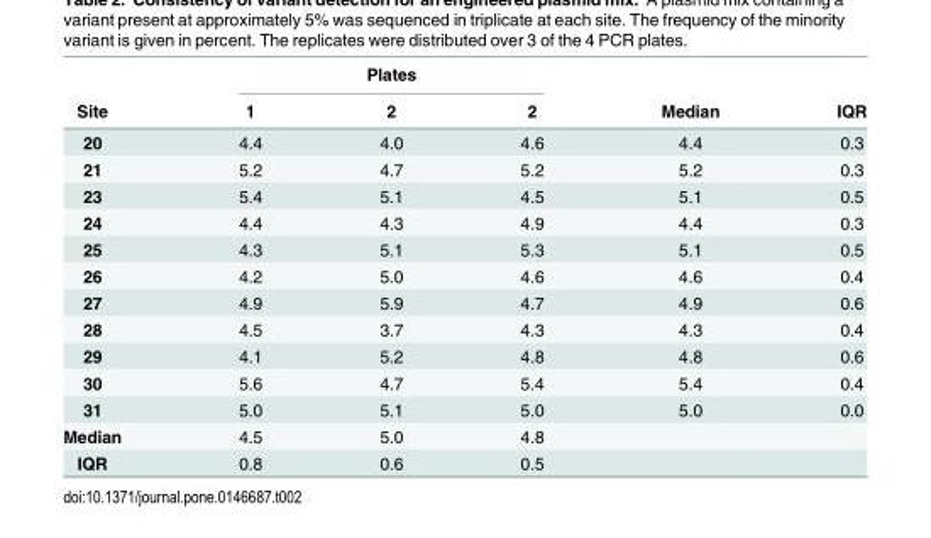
<table><thead><tr><td rowspan="2">Site</td><td colspan="3">Plates</td><td rowspan="2">Median</td><td rowspan="2">IQR</td></tr><tr><td>1</td><td>2</td><td>2</td></tr></thead><tbody><tr><td>20</td><td>4.4</td><td>4.0</td><td>4.6</td><td>4.4</td><td>0.3</td></tr><tr><td>21</td><td>5.2</td><td>4.7</td><td>5.2</td><td>5.2</td><td>0.3</td></tr><tr><td>23</td><td>5.4</td><td>5.1</td><td>4.5</td><td>5.1</td><td>0.5</td></tr><tr><td>24</td><td>4.4</td><td>4.3</td><td>4.9</td><td>4.4</td><td>0.3</td></tr><tr><td>25</td><td>4.3</td><td>5.1</td><td>5.3</td><td>5.1</td><td>0.5</td></tr><tr><td>26</td><td>4.2</td><td>5.0</td><td>4.6</td><td>4.6</td><td>0.4</td></tr><tr><td>27</td><td>4.9</td><td>5.9</td><td>4.7</td><td>4.9</td><td>0.6</td></tr><tr><td>28</td><td>4.5</td><td>3.7</td><td>4.3</td><td>4.3</td><td>0.4</td></tr><tr><td>29</td><td>4.1</td><td>5.2</td><td>4.8</td><td>4.8</td><td>0.6</td></tr><tr><td>30</td><td>5.6</td><td>4.7</td><td>5.4</td><td>5.4</td><td>0.4</td></tr><tr><td>31</td><td>5.0</td><td>5.1</td><td>5.0</td><td>5.0</td><td>0.0</td></tr><tr><td>Median</td><td>4.5</td><td>5.0</td><td>4.8</td><td></td><td></td></tr><tr><td>IQR</td><td>0.8</td><td>0.6</td><td>0.5</td><td></td><td></td></tr></tbody></table>